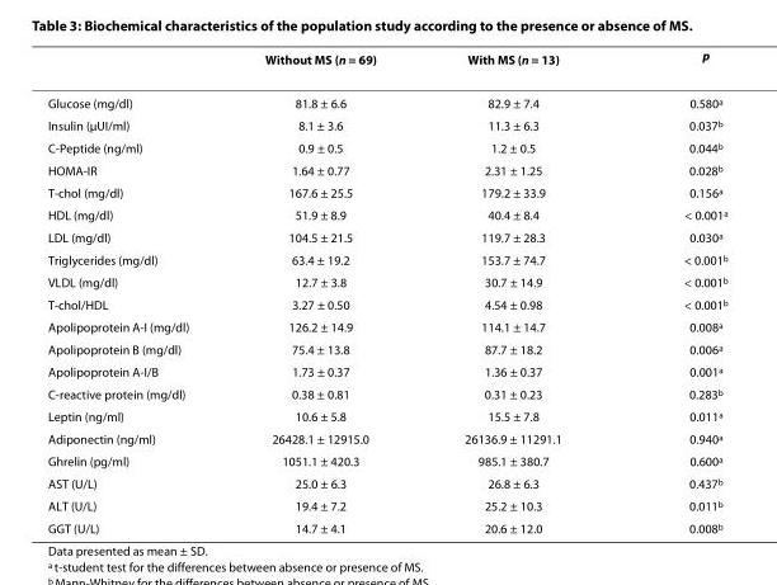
<table><thead><tr><td></td><td>Without MS (n = 69)</td><td>With MS (n = 13)</td><td>p</td></tr></thead><tbody><tr><td>Glucose (mg/dl)</td><td>81.8 ± 6.6</td><td>82.9 ± 7.4</td><td>0.580<sup>a</sup></td></tr><tr><td>Insulin (μUI/ml)</td><td>8.1 ± 3.6</td><td>11.3 ± 6.3</td><td>0.037<sup>b</sup></td></tr><tr><td>C-Peptide (ng/ml)</td><td>0.9 ± 0.5</td><td>1.2 ± 0.5</td><td>0.044<sup>b</sup></td></tr><tr><td>HOMA-IR</td><td>1.64 ± 0.77</td><td>2.31 ± 1.25</td><td>0.028<sup>b</sup></td></tr><tr><td>T-chol (mg/dl)</td><td>167.6 ± 25.5</td><td>179.2 ± 33.9</td><td>0.156<sup>a</sup></td></tr><tr><td>HDL (mg/dl)</td><td>51.9 ± 8.9</td><td>40.4 ± 8.4</td><td>&lt; 0.001<sup>a</sup></td></tr><tr><td>LDL (mg/dl)</td><td>104.5 ± 21.5</td><td>119.7 ± 28.3</td><td>0.030<sup>a</sup></td></tr><tr><td>Triglycerides (mg/dl)</td><td>63.4 ± 19.2</td><td>153.7 ± 74.7</td><td>&lt; 0.001<sup>b</sup></td></tr><tr><td>VLDL (mg/dl)</td><td>12.7 ± 3.8</td><td>30.7 ± 14.9</td><td>&lt; 0.001<sup>b</sup></td></tr><tr><td>T-chol/HDL</td><td>3.27 ± 0.50</td><td>4.54 ± 0.98</td><td>&lt; 0.001<sup>b</sup></td></tr><tr><td>Apolipoprotein A-I (mg/dl)</td><td>126.2 ± 14.9</td><td>114.1 ± 14.7</td><td>0.008<sup>a</sup></td></tr><tr><td>Apolipoprotein B (mg/dl)</td><td>75.4 ± 13.8</td><td>87.7 ± 18.2</td><td>0.006<sup>a</sup></td></tr><tr><td>Apolipoprotein A-I/B</td><td>1.73 ± 0.37</td><td>1.36 ± 0.37</td><td>0.001<sup>a</sup></td></tr><tr><td>C-reactive protein (mg/dl)</td><td>0.38 ± 0.81</td><td>0.31 ± 0.23</td><td>0.283<sup>b</sup></td></tr><tr><td>Leptin (ng/ml)</td><td>10.6 ± 5.8</td><td>15.5 ± 7.8</td><td>0.011<sup>a</sup></td></tr><tr><td>Adiponectin (ng/ml)</td><td>26428.1 ± 12915.0</td><td>26136.9 ± 11291.1</td><td>0.940<sup>a</sup></td></tr><tr><td>Ghrelin (pg/ml)</td><td>1051.1 ± 420.3</td><td>985.1 ± 380.7</td><td>0.600<sup>a</sup></td></tr><tr><td>AST (U/L)</td><td>25.0 ± 6.3</td><td>26.8 ± 6.3</td><td>0.437<sup>b</sup></td></tr><tr><td>ALT (U/L)</td><td>19.4 ± 7.2</td><td>25.2 ± 10.3</td><td>0.011<sup>b</sup></td></tr><tr><td>GGT (U/L)</td><td>14.7 ± 4.1</td><td>20.6 ± 12.0</td><td>0.008<sup>b</sup></td></tr></tbody></table>